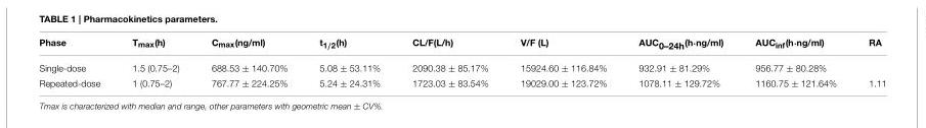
<table><thead><tr><td>Phase</td><td>T<sub>max</sub>(h)</td><td>C<sub>max</sub>(ng/ml)</td><td>t1/2(h)</td><td>CL/F(L/h)</td><td>V/F (L)</td><td>AUC<sub>0–24h</sub>(h·ng/ml)</td><td>AUC<sub>inf</sub>(h·ng/ml)</td><td>RA</td></tr></thead><tbody><tr><td>Single-dose</td><td>1.5 (0.75–2)</td><td>688.53 ± 140.70%</td><td>5.08 ± 53.11%</td><td>2090.38 ± 85.17%</td><td>15924.60 ± 116.84%</td><td>932.91 ± 81.29%</td><td>956.77 ± 80.28%</td><td></td></tr><tr><td>Repeated-dose</td><td>1 (0.75–2)</td><td>767.77 ± 224.25%</td><td>5.24 ± 24.31%</td><td>1723.03 ± 83.54%</td><td>19029.00 ± 123.72%</td><td>1078.11 ± 129.72%</td><td>1160.75 ± 121.64%</td><td>1.11</td></tr></tbody></table>